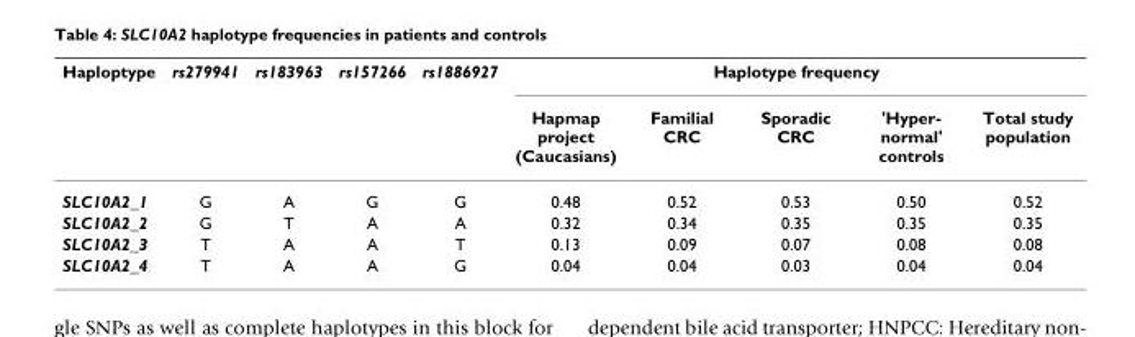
<table><thead><tr><td rowspan="2">Haploptype</td><td rowspan="2">rs279941</td><td rowspan="2">rs183963</td><td rowspan="2">rs157266</td><td rowspan="2">rs1886927</td><td colspan="5">Haplotype frequency</td></tr><tr><td>Hapmap project (Caucasians)</td><td>Familial CRC</td><td>Sporadic CRC</td><td>&#x27;Hyper- normal&#x27; controls</td><td>Total study population</td></tr></thead><tbody><tr><td>SLC10A2_1</td><td>G</td><td>A</td><td>G</td><td>G</td><td>0.48</td><td>0.52</td><td>0.53</td><td>0.50</td><td>0.52</td></tr><tr><td>SLC10A2_2</td><td>G</td><td>T</td><td>A</td><td>A</td><td>0.32</td><td>0.34</td><td>0.35</td><td>0.35</td><td>0.35</td></tr><tr><td>SLC10A2_3</td><td>T</td><td>A</td><td>A</td><td>T</td><td>0.13</td><td>0.09</td><td>0.07</td><td>0.08</td><td>0.08</td></tr><tr><td>SLC10A2_4</td><td>T</td><td>A</td><td>A</td><td>G</td><td>0.04</td><td>0.04</td><td>0.03</td><td>0.04</td><td>0.04</td></tr></tbody></table>